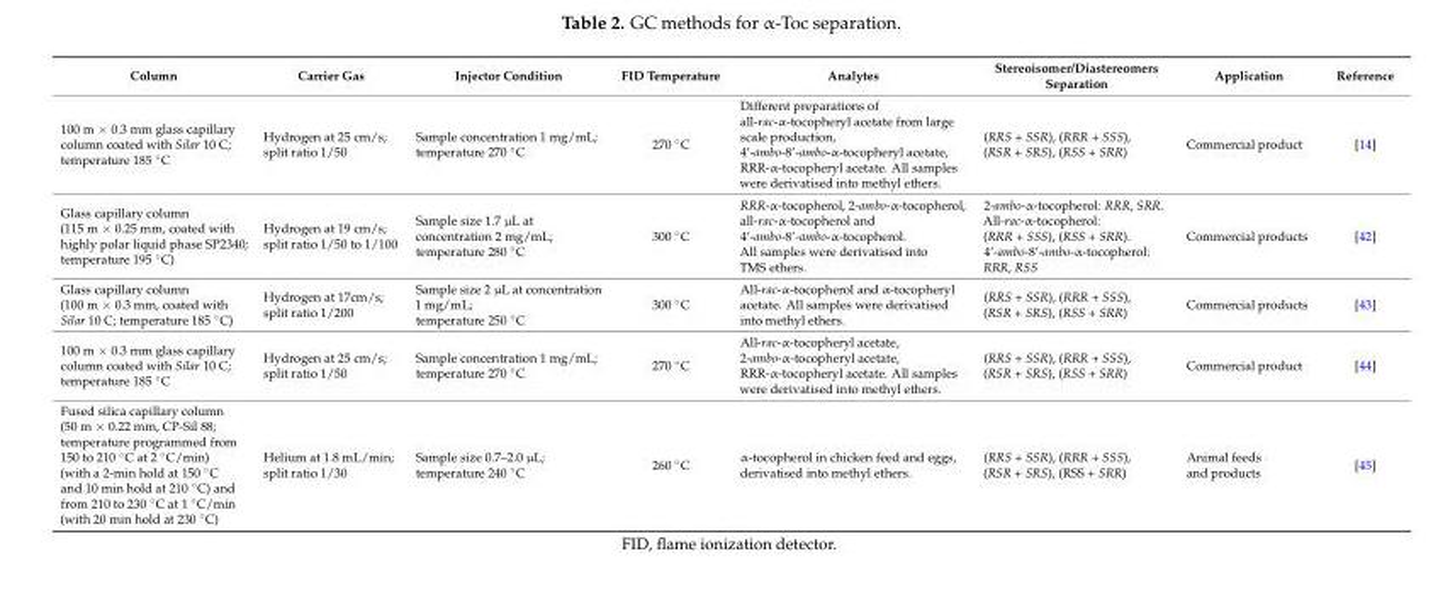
<table><thead><tr><td>Column</td><td>Carrier Gas</td><td>Injector Condition</td><td>FID Temperature</td><td>Analytes</td><td>Stereoisomer/Diastereomers Separation</td><td>Application</td><td>Reference</td></tr></thead><tbody><tr><td>100 m × 0.3 mm glass capillary column coated with Silar 10 C; temperature 185 ◦C</td><td>Hydrogen at 25 cm/s; split ratio 1/50</td><td>Sample concentration 1 mg/mL; temperature 270 ◦C</td><td>270 ◦C</td><td>Different preparations of all-rac-α-tocopheryl acetate from large scale production, 4’-ambo-8’-ambo-α-tocopheryl acetate, RRR-α-tocopheryl acetate. All samples were derivatised into methyl ethers.</td><td>(RRS + SSR), (RRR + SSS), (RSR + SRS), (RSS + SRR)</td><td>Commercial product</td><td>[14]</td></tr><tr><td>Glass capillary column (115 m × 0.25 mm, coated with highly polar liquid phase SP2340; temperature 195 ◦C)</td><td>Hydrogen at 19 cm/s; split ratio 1/50 to 1/100</td><td>Sample size 1.7 µL at concentration 2 mg/mL; temperature 280 ◦C</td><td>300 ◦C</td><td>RRR-α-tocopherol, 2-ambo-α-tocopherol, all-rac-α-tocopherol and 4’-ambo-8’-ambo-α-tocopherol. All samples were derivatised into TMS ethers.</td><td>2-ambo-α-tocopherol: RRR, SRR. All-rac-α-tocopherol: (RRR + SSS), (RSS + SRR). 4’-ambo-8’-ambo-α-tocopherol: RRR, RSS</td><td>Commercial products</td><td>[42]</td></tr><tr><td>Glass capillary column (100 m × 0.3 mm, coated with Silar 10 C; temperature 185 ◦C)</td><td>Hydrogen at 17cm/s; split ratio 1/200</td><td>Sample size 2 µL at concentration 1 mg/mL; temperature 250 ◦C</td><td>300 ◦C</td><td>All-rac-α-tocopherol and α-tocopheryl acetate. All samples were derivatised into methyl ethers.</td><td>(RRS + SSR), (RRR + SSS), (RSR + SRS), (RSS + SRR)</td><td>Commercial products</td><td>[43]</td></tr><tr><td>100 m × 0.3 mm glass capillary column coated with Silar 10 C; temperature 185 ◦C</td><td>Hydrogen at 25 cm/s; split ratio 1/50</td><td>Sample concentration 1 mg/mL; temperature 270 ◦C</td><td>270 ◦C</td><td>All-rac-α-tocopheryl acetate, 2-ambo-α-tocopheryl acetate, RRR-α-tocopheryl acetate. All samples were derivatised into methyl ethers.</td><td>(RRS + SSR), (RRR + SSS), (RSR + SRS), (RSS + SRR)</td><td>Commercial product</td><td>[44]</td></tr><tr><td>Fused silica capillary column (50 m × 0.22 mm, CP-Sil 88; temperature programmed from 150 to 210 ◦C at 2 ◦C/min) (with a 2-min hold at 150 ◦C and 10 min hold at 210 ◦C) and from 210 to 230 ◦C at 1 ◦C/min (with 20 min hold at 230 ◦C)</td><td>Helium at 1.8 mL/min; split ratio 1/30</td><td>Sample size 0.7–2.0 µL; temperature 240 ◦C</td><td>260 ◦C</td><td>α-tocopherol in chicken feed and eggs, derivatised into methyl ethers.</td><td>(RRS + SSR), (RRR + SSS), (RSR + SRS), (RSS + SRR)</td><td>Animal feeds and products</td><td>[45]</td></tr></tbody></table>